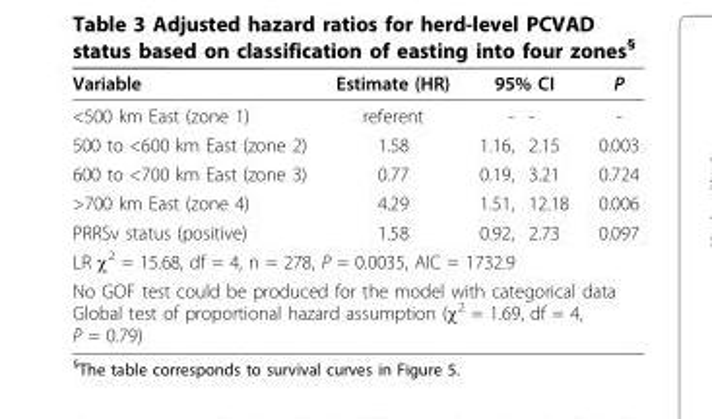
<table><thead><tr><td rowspan="2">Variable &lt;500 km East (zone 1)</td><td rowspan="2">Estimate (HR) referent</td><td colspan="2">95% CI</td><td rowspan="2">P -</td></tr><tr><td>-</td><td>-</td></tr></thead><tbody><tr><td>500 to &lt;600 km East (zone 2)</td><td>1.58</td><td>1.16,</td><td>2.15</td><td>0.003</td></tr><tr><td>600 to &lt;700 km East (zone 3)</td><td>0.77</td><td>0.19,</td><td>3.21</td><td>0.724</td></tr><tr><td>&gt;700 km East (zone 4)</td><td>4.29</td><td>1.51,</td><td>12.18</td><td>0.006</td></tr><tr><td>PRRSv status (positive)</td><td>1.58</td><td>0.92,</td><td>2.73</td><td>0.097</td></tr><tr><td colspan="5">LR χ<sup>2</sup> = 15.68, df = 4, n = 278, P = 0.0035, AIC = 1732.9</td></tr><tr><td colspan="5">No GOF test could be produced for the model with categorical data Global test of proportional hazard assumption (χ<sup>2</sup> = 1.69, df = 4, P = 0.79)</td></tr></tbody></table>